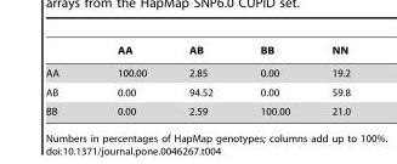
<table><thead><tr><td></td><td>AA</td><td>AB</td><td>BB</td><td>NN</td></tr></thead><tbody><tr><td>AA</td><td>100.00</td><td>2.85</td><td>0.00</td><td>19.2</td></tr><tr><td>AB</td><td>0.00</td><td>94.52</td><td>0.00</td><td>59.8</td></tr><tr><td>BB</td><td>0.00</td><td>2.59</td><td>100.00</td><td>21.0</td></tr></tbody></table>